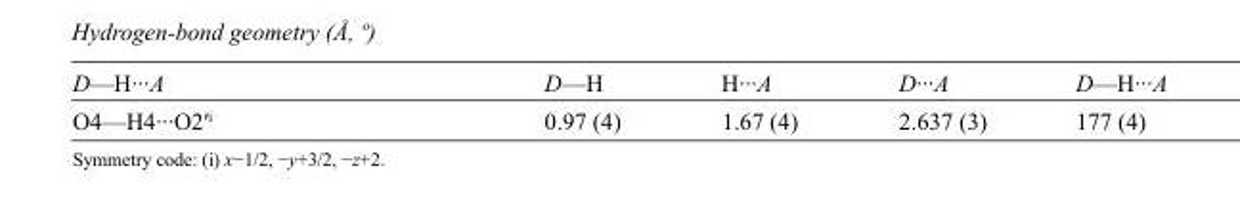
<table><tbody><tr><td>D—H···A</td><td>D—H</td><td>H···A</td><td>D···A</td><td>D—H···A</td></tr><tr><td>O4—H4···O2′<sup>i</sup></td><td>0.97 (4)</td><td>1.67 (4)</td><td>2.637 (3)</td><td>177 (4)</td></tr></tbody></table>